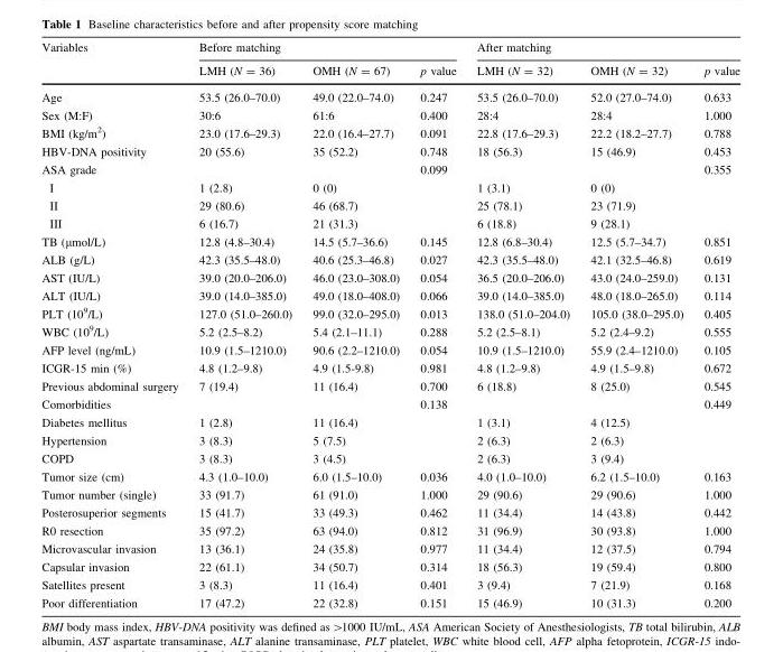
<table><thead><tr><td rowspan="2">Variables</td><td colspan="3">Before matching</td><td colspan="3">After matching</td></tr><tr><td>LMH (N = 36)</td><td>OMH (N = 67)</td><td>p value</td><td>LMH (N = 32)</td><td>OMH (N = 32)</td><td>p value</td></tr></thead><tbody><tr><td>Age</td><td>53.5 (26.0–70.0)</td><td>49.0 (22.0–74.0)</td><td>0.247</td><td>53.5 (26.0–70.0)</td><td>52.0 (27.0–74.0)</td><td>0.633</td></tr><tr><td>Sex (M:F)</td><td>30:6</td><td>61:6</td><td>0.400</td><td>28:4</td><td>28:4</td><td>1.000</td></tr><tr><td>BMI (kg/m<sup>2</sup>)</td><td>23.0 (17.6–29.3)</td><td>22.0 (16.4–27.7)</td><td>0.091</td><td>22.8 (17.6–29.3)</td><td>22.2 (18.2–27.7)</td><td>0.788</td></tr><tr><td>HBV-DNA positivity</td><td>20 (55.6)</td><td>35 (52.2)</td><td>0.748</td><td>18 (56.3)</td><td>15 (46.9)</td><td>0.453</td></tr><tr><td>ASA grade</td><td></td><td></td><td>0.099</td><td></td><td></td><td>0.355</td></tr><tr><td>I</td><td>1 (2.8)</td><td>0 (0)</td><td></td><td>1 (3.1)</td><td>0 (0)</td><td></td></tr><tr><td>II</td><td>29 (80.6)</td><td>46 (68.7)</td><td></td><td>25 (78.1)</td><td>23 (71.9)</td><td></td></tr><tr><td>III</td><td>6 (16.7)</td><td>21 (31.3)</td><td></td><td>6 (18.8)</td><td>9 (28.1)</td><td></td></tr><tr><td>TB (µmol/L)</td><td>12.8 (4.8–30.4)</td><td>14.5 (5.7–36.6)</td><td>0.145</td><td>12.8 (6.8–30.4)</td><td>12.5 (5.7–34.7)</td><td>0.851</td></tr><tr><td>ALB (g/L)</td><td>42.3 (35.5–48.0)</td><td>40.6 (25.3–46.8)</td><td>0.027</td><td>42.3 (35.5–48.0)</td><td>42.1 (32.5–46.8)</td><td>0.619</td></tr><tr><td>AST (IU/L)</td><td>39.0 (20.0–206.0)</td><td>46.0 (23.0–308.0)</td><td>0.054</td><td>36.5 (20.0–206.0)</td><td>43.0 (24.0–259.0)</td><td>0.131</td></tr><tr><td>ALT (IU/L)</td><td>39.0 (14.0–385.0)</td><td>49.0 (18.0–408.0)</td><td>0.066</td><td>39.0 (14.0–385.0)</td><td>48.0 (18.0–265.0)</td><td>0.114</td></tr><tr><td>PLT (10<sup>9</sup>/L)</td><td>127.0 (51.0–260.0)</td><td>99.0 (32.0–295.0)</td><td>0.013</td><td>138.0 (51.0–204.0)</td><td>105.0 (38.0–295.0)</td><td>0.405</td></tr><tr><td>WBC (10<sup>9</sup>/L)</td><td>5.2 (2.5–8.2)</td><td>5.4 (2.1–11.1)</td><td>0.288</td><td>5.2 (2.5–8.1)</td><td>5.2 (2.4–9.2)</td><td>0.555</td></tr><tr><td>AFP level (ng/mL)</td><td>10.9 (1.5–1210.0)</td><td>90.6 (2.2–1210.0)</td><td>0.054</td><td>10.9 (1.5–1210.0)</td><td>55.9 (2.4–1210.0)</td><td>0.105</td></tr><tr><td>ICGR-15 min (%)</td><td>4.8 (1.2–9.8)</td><td>4.9 (1.5-9.8)</td><td>0.981</td><td>4.8 (1.2–9.8)</td><td>4.9 (1.5–9.8)</td><td>0.672</td></tr><tr><td>Previous abdominal surgery</td><td>7 (19.4)</td><td>11 (16.4)</td><td>0.700</td><td>6 (18.8)</td><td>8 (25.0)</td><td>0.545</td></tr><tr><td>Comorbidities</td><td></td><td></td><td>0.138</td><td></td><td></td><td>0.449</td></tr><tr><td>Diabetes mellitus</td><td>1 (2.8)</td><td>11 (16.4)</td><td></td><td>1 (3.1)</td><td>4 (12.5)</td><td></td></tr><tr><td>Hypertension</td><td>3 (8.3)</td><td>5 (7.5)</td><td></td><td>2 (6.3)</td><td>2 (6.3)</td><td></td></tr><tr><td>COPD</td><td>3 (8.3)</td><td>3 (4.5)</td><td></td><td>2 (6.3)</td><td>3 (9.4)</td><td></td></tr><tr><td>Tumor size (cm)</td><td>4.3 (1.0–10.0)</td><td>6.0 (1.5–10.0)</td><td>0.036</td><td>4.0 (1.0–10.0)</td><td>6.2 (1.5–10.0)</td><td>0.163</td></tr><tr><td>Tumor number (single)</td><td>33 (91.7)</td><td>61 (91.0)</td><td>1.000</td><td>29 (90.6)</td><td>29 (90.6)</td><td>1.000</td></tr><tr><td>Posterosuperior segments</td><td>15 (41.7)</td><td>33 (49.3)</td><td>0.462</td><td>11 (34.4)</td><td>14 (43.8)</td><td>0.442</td></tr><tr><td>R0 resection</td><td>35 (97.2)</td><td>63 (94.0)</td><td>0.812</td><td>31 (96.9)</td><td>30 (93.8)</td><td>1.000</td></tr><tr><td>Microvascular invasion</td><td>13 (36.1)</td><td>24 (35.8)</td><td>0.977</td><td>11 (34.4)</td><td>12 (37.5)</td><td>0.794</td></tr><tr><td>Capsular invasion</td><td>22 (61.1)</td><td>34 (50.7)</td><td>0.314</td><td>18 (56.3)</td><td>19 (59.4)</td><td>0.800</td></tr><tr><td>Satellites present</td><td>3 (8.3)</td><td>11 (16.4)</td><td>0.401</td><td>3 (9.4)</td><td>7 (21.9)</td><td>0.168</td></tr><tr><td>Poor differentiation</td><td>17 (47.2)</td><td>22 (32.8)</td><td>0.151</td><td>15 (46.9)</td><td>10 (31.3)</td><td>0.200</td></tr></tbody></table>